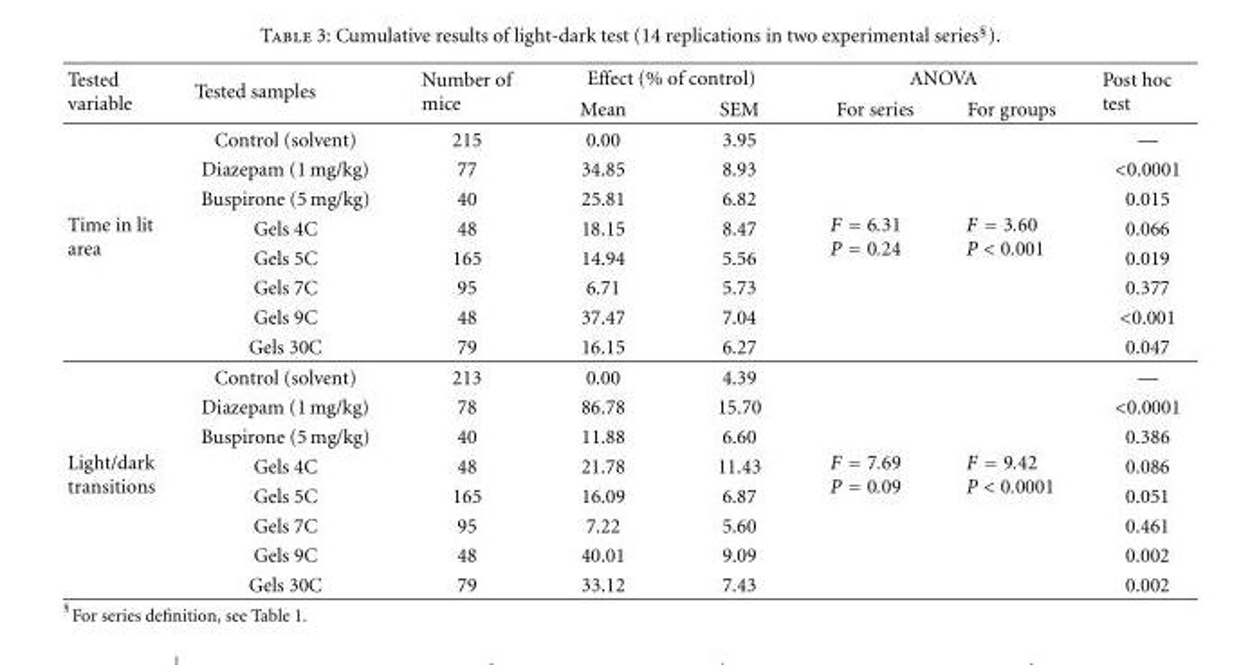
<table><thead><tr><td rowspan="2">Tested variable</td><td rowspan="2">Tested samples</td><td rowspan="2">Number of mice</td><td colspan="2">Effect (% of control)</td><td colspan="2">ANOVA</td><td rowspan="2">Post hoc test</td></tr><tr><td>Mean</td><td>SEM</td><td>For series</td><td>For groups</td></tr></thead><tbody><tr><td rowspan="8">Time in lit area</td><td>Control (solvent)</td><td>215</td><td>0.00</td><td>3.95</td><td rowspan="8">F = 6.31 P = 0.24</td><td rowspan="8">F = 3.60 P &lt; 0.001</td><td>—</td></tr><tr><td>Diazepam (1 mg/kg)</td><td>77</td><td>34.85</td><td>8.93</td><td>&lt;0.0001</td></tr><tr><td>Buspirone (5 mg/kg)</td><td>40</td><td>25.81</td><td>6.82</td><td>0.015</td></tr><tr><td>Gels 4C</td><td>48</td><td>18.15</td><td>8.47</td><td>0.066</td></tr><tr><td>Gels 5C</td><td>165</td><td>14.94</td><td>5.56</td><td>0.019</td></tr><tr><td>Gels 7C</td><td>95</td><td>6.71</td><td>5.73</td><td>0.377</td></tr><tr><td>Gels 9C</td><td>48</td><td>37.47</td><td>7.04</td><td>&lt;0.001</td></tr><tr><td>Gels 30C</td><td>79</td><td>16.15</td><td>6.27</td><td>0.047</td></tr><tr><td rowspan="8">Light/dark transitions</td><td>Control (solvent)</td><td>213</td><td>0.00</td><td>4.39</td><td rowspan="8">F = 7.69 P = 0.09</td><td rowspan="8">F = 9.42 P &lt; 0.0001</td><td>—</td></tr><tr><td>Diazepam (1 mg/kg)</td><td>78</td><td>86.78</td><td>15.70</td><td>&lt;0.0001</td></tr><tr><td>Buspirone (5 mg/kg)</td><td>40</td><td>11.88</td><td>6.60</td><td>0.386</td></tr><tr><td>Gels 4C</td><td>48</td><td>21.78</td><td>11.43</td><td>0.086</td></tr><tr><td>Gels 5C</td><td>165</td><td>16.09</td><td>6.87</td><td>0.051</td></tr><tr><td>Gels 7C</td><td>95</td><td>7.22</td><td>5.60</td><td>0.461</td></tr><tr><td>Gels 9C</td><td>48</td><td>40.01</td><td>9.09</td><td>0.002</td></tr><tr><td>Gels 30C</td><td>79</td><td>33.12</td><td>7.43</td><td>0.002</td></tr></tbody></table>